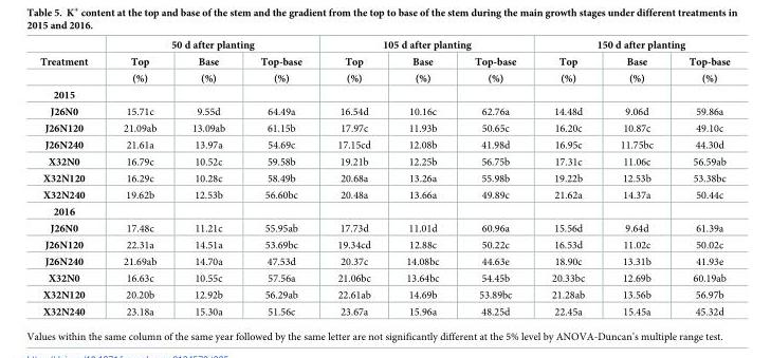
<table><thead><tr><td rowspan="3">Treatment</td><td colspan="3">50 d after planting</td><td colspan="3">105 d after planting</td><td colspan="3">150 d after planting</td></tr><tr><td rowspan="2">Top (%)</td><td rowspan="2">Base (%)</td><td rowspan="2">Top-base (%)</td><td rowspan="2">Top (%)</td><td rowspan="2">Base (%)</td><td rowspan="2">Top-base (%)</td><td rowspan="2">Top (%)</td><td rowspan="2">Base (%)</td><td rowspan="2">Top-base (%)</td></tr><tr></tr></thead><tbody><tr><td colspan="10">2015</td></tr><tr><td>J26N0</td><td>15.71c</td><td>9.55d</td><td>64.49a</td><td>16.54d</td><td>10.16c</td><td>62.76a</td><td>14.48d</td><td>9.06d</td><td>59.86a</td></tr><tr><td>J26N120</td><td>21.09ab</td><td>13.09ab</td><td>61.15b</td><td>17.97c</td><td>11.93b</td><td>50.65c</td><td>16.20c</td><td>10.87c</td><td>49.10c</td></tr><tr><td>J26N240</td><td>21.61a</td><td>13.97a</td><td>54.69c</td><td>17.15cd</td><td>12.08b</td><td>41.98d</td><td>16.95c</td><td>11.75bc</td><td>44.30d</td></tr><tr><td>X32N0</td><td>16.79c</td><td>10.52c</td><td>59.58b</td><td>19.21b</td><td>12.25b</td><td>56.75b</td><td>17.31c</td><td>11.06c</td><td>56.59ab</td></tr><tr><td>X32N120</td><td>16.29c</td><td>10.28c</td><td>58.49b</td><td>20.68a</td><td>13.26a</td><td>55.98b</td><td>19.22b</td><td>12.53b</td><td>53.38bc</td></tr><tr><td>X32N240</td><td>19.62b</td><td>12.53b</td><td>56.60bc</td><td>20.48a</td><td>13.66a</td><td>49.89c</td><td>21.62a</td><td>14.37a</td><td>50.44c</td></tr><tr><td colspan="10">2016</td></tr><tr><td>J26N0</td><td>17.48c</td><td>11.21c</td><td>55.95ab</td><td>17.73d</td><td>11.01d</td><td>60.96a</td><td>15.56d</td><td>9.64d</td><td>61.39a</td></tr><tr><td>J26N120</td><td>22.31a</td><td>14.51a</td><td>53.69bc</td><td>19.34cd</td><td>12.88c</td><td>50.22c</td><td>16.53d</td><td>11.02c</td><td>50.02c</td></tr><tr><td>J26N240</td><td>21.69ab</td><td>14.70a</td><td>47.53d</td><td>20.37c</td><td>14.08bc</td><td>44.63e</td><td>18.90c</td><td>13.31b</td><td>41.93e</td></tr><tr><td>X32N0</td><td>16.63c</td><td>10.55c</td><td>57.56a</td><td>21.06bc</td><td>13.64bc</td><td>54.45b</td><td>20.33bc</td><td>12.69b</td><td>60.19ab</td></tr><tr><td>X32N120</td><td>20.20b</td><td>12.92b</td><td>56.29ab</td><td>22.61ab</td><td>14.69b</td><td>53.89bc</td><td>21.28ab</td><td>13.56b</td><td>56.97b</td></tr><tr><td>X32N240</td><td>23.18a</td><td>15.30a</td><td>51.56c</td><td>23.67a</td><td>15.96a</td><td>48.25d</td><td>22.45a</td><td>15.45a</td><td>45.32d</td></tr></tbody></table>